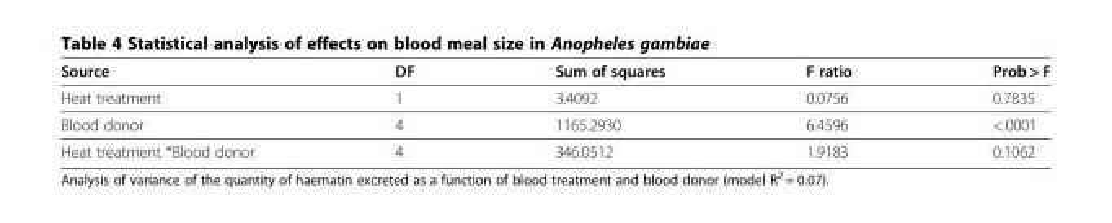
<table><thead><tr><td>Source</td><td>DF</td><td>Sum of squares</td><td>F ratio</td><td>Prob &gt; F</td></tr></thead><tbody><tr><td>Heat treatment</td><td>1</td><td>3.4092</td><td>0.0756</td><td>0.7835</td></tr><tr><td>Blood donor</td><td>4</td><td>1165.2930</td><td>6.4596</td><td>&lt;.0001</td></tr><tr><td>Heat treatment *Blood donor</td><td>4</td><td>346.0512</td><td>1.9183</td><td>0.1062</td></tr></tbody></table>